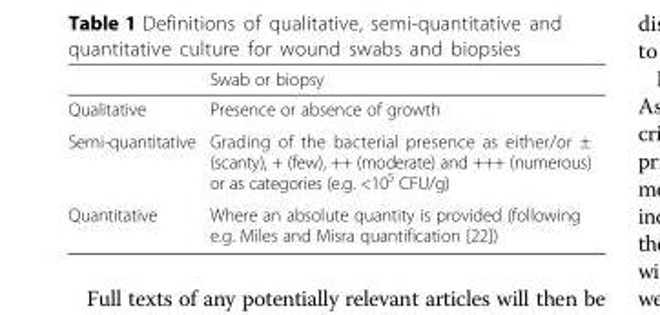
<table><thead><tr><td></td><td>Swab or biopsy</td></tr></thead><tbody><tr><td>Qualitative</td><td>Presence or absence of growth</td></tr><tr><td>Semi-quantitative</td><td>Grading of the bacterial presence as either/or ± (scanty), + (few), ++ (moderate) and +++ (numerous) or as categories (e.g. &lt;10<sup>5</sup> CFU/g)</td></tr><tr><td>Quantitative</td><td>Where an absolute quantity is provided (following e.g. Miles and Misra quantification [22])</td></tr></tbody></table>